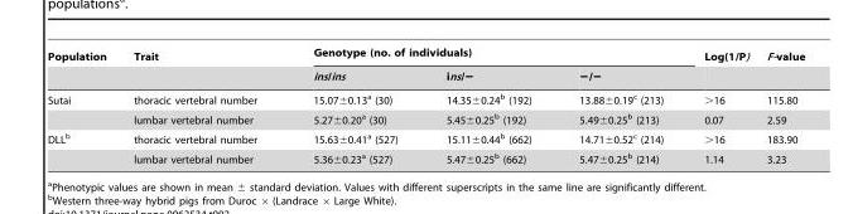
<table><thead><tr><td rowspan="2">Population</td><td rowspan="2">Trait</td><td colspan="3">Genotype (no. of individuals)</td><td rowspan="2">Log(1/P)</td><td rowspan="2">F-value</td></tr><tr><td>ins/ins</td><td>ins/−</td><td>−/−</td></tr></thead><tbody><tr><td rowspan="2">Sutai</td><td>thoracic vertebral number</td><td>15.07±0.13<sup>a</sup> (30)</td><td>14.35±0.24<sup>b</sup> (192)</td><td>13.88±0.19<sup>c</sup> (213)</td><td>&gt;16</td><td>115.80</td></tr><tr><td>lumbar vertebral number</td><td>5.27±0.20<sup>a</sup> (30)</td><td>5.45±0.25<sup>b</sup> (192)</td><td>5.49±0.25<sup>b</sup> (213)</td><td>0.07</td><td>2.59</td></tr><tr><td rowspan="2">DLL<sup>b</sup></td><td>thoracic vertebral number</td><td>15.63±0.41<sup>a</sup> (527)</td><td>15.11±0.44<sup>b</sup> (662)</td><td>14.71±0.52<sup>c</sup> (214)</td><td>&gt;16</td><td>183.90</td></tr><tr><td>lumbar vertebral number</td><td>5.36±0.23<sup>a</sup> (527)</td><td>5.47±0.25<sup>b</sup> (662)</td><td>5.47±0.25<sup>b</sup> (214)</td><td>1.14</td><td>3.23</td></tr></tbody></table>